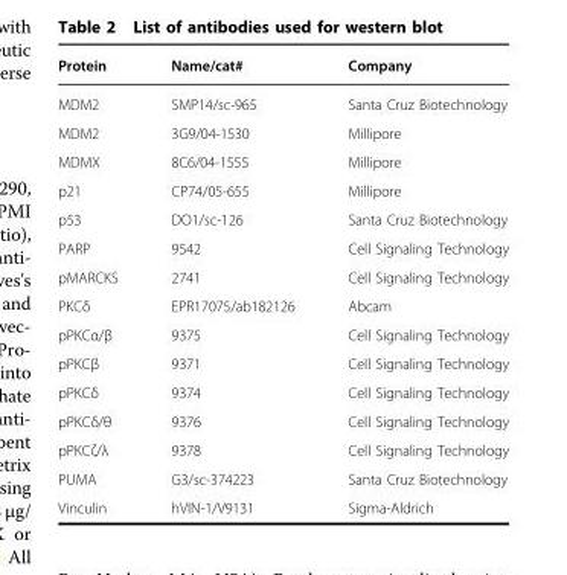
<table><thead><tr><td>Protein</td><td>Name/cat#</td><td>Company</td></tr></thead><tbody><tr><td>MDM2</td><td>SMP14/sc-965</td><td>Santa Cruz Biotechnology</td></tr><tr><td>MDM2</td><td>3G9/04-1530</td><td>Millipore</td></tr><tr><td>MDMX</td><td>8C6/04-1555</td><td>Millipore</td></tr><tr><td>p21</td><td>CP74/05-655</td><td>Millipore</td></tr><tr><td>p53</td><td>DO1/sc-126</td><td>Santa Cruz Biotechnology</td></tr><tr><td>PARP</td><td>9542</td><td>Cell Signaling Technology</td></tr><tr><td>pMARCKS</td><td>2741</td><td>Cell Signaling Technology</td></tr><tr><td>PKCδ</td><td>EPR17075/ab182126</td><td>Abcam</td></tr><tr><td>pPKCα/β</td><td>9375</td><td>Cell Signaling Technology</td></tr><tr><td>pPKCβ</td><td>9371</td><td>Cell Signaling Technology</td></tr><tr><td>pPKCδ</td><td>9374</td><td>Cell Signaling Technology</td></tr><tr><td>pPKCδ/θ</td><td>9376</td><td>Cell Signaling Technology</td></tr><tr><td>pPKCζ/λ</td><td>9378</td><td>Cell Signaling Technology</td></tr><tr><td>PUMA</td><td>G3/sc-374223</td><td>Santa Cruz Biotechnology</td></tr><tr><td>Vinculin</td><td>hVIN-1/V9131</td><td>Sigma-Aldrich</td></tr></tbody></table>